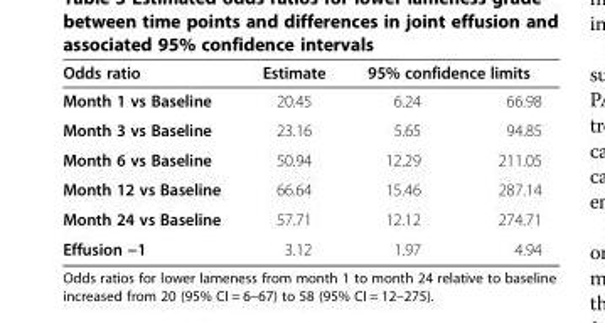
<table><thead><tr><td rowspan="2">Odds ratio Month 1 vs Baseline</td><td rowspan="2">Estimate 20.45</td><td colspan="2">95% confidence limits</td></tr><tr><td>6.24</td><td>66.98</td></tr></thead><tbody><tr><td>Month 3 vs Baseline</td><td>23.16</td><td>5.65</td><td>94.85</td></tr><tr><td>Month 6 vs Baseline</td><td>50.94</td><td>12.29</td><td>211.05</td></tr><tr><td>Month 12 vs Baseline</td><td>66.64</td><td>15.46</td><td>287.14</td></tr><tr><td>Month 24 vs Baseline</td><td>57.71</td><td>12.12</td><td>274.71</td></tr><tr><td>Effusion −1</td><td>3.12</td><td>1.97</td><td>4.94</td></tr></tbody></table>